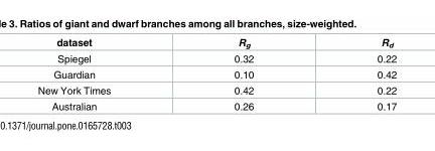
<table><thead><tr><td>dataset</td><td>R<sub>g</sub></td><td>R<sub>d</sub></td></tr></thead><tbody><tr><td>Spiegel</td><td>0.32</td><td>0.22</td></tr><tr><td>Guardian</td><td>0.10</td><td>0.42</td></tr><tr><td>New York Times</td><td>0.42</td><td>0.22</td></tr><tr><td>Australian</td><td>0.26</td><td>0.17</td></tr></tbody></table>